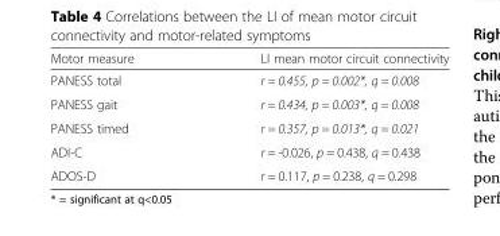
<table><thead><tr><td>Motor measure</td><td>LI mean motor circuit connectivity</td></tr></thead><tbody><tr><td>PANESS total</td><td>r = 0.455, p = 0.002*, q = 0.008</td></tr><tr><td>PANESS gait</td><td>r = 0.434, p = 0.003*, q = 0.008</td></tr><tr><td>PANESS timed</td><td>r = 0.357, p = 0.013*, q = 0.021</td></tr><tr><td>ADI-C</td><td>r = -0.026, p = 0.438, q = 0.438</td></tr><tr><td>ADOS-D</td><td>r = 0.117, p = 0.238, q = 0.298</td></tr></tbody></table>